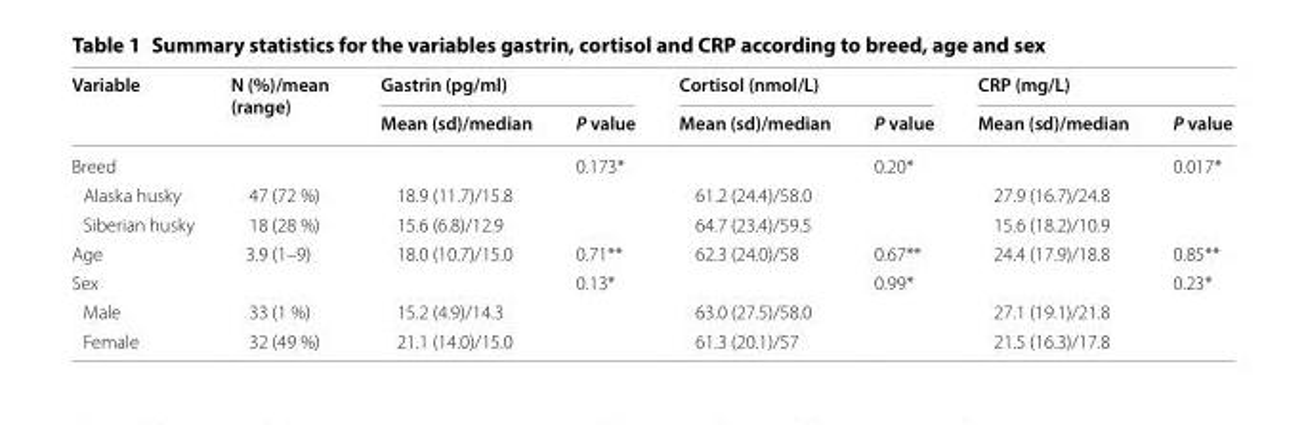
<table><thead><tr><td rowspan="2">Variable</td><td rowspan="2">N (%)/mean (range)</td><td colspan="2">Gastrin (pg/ml)</td><td colspan="2">Cortisol (nmol/L)</td><td colspan="2">CRP (mg/L)</td></tr><tr><td>Mean (sd)/median</td><td>P value</td><td>Mean (sd)/median</td><td>P value</td><td>Mean (sd)/median</td><td>P value</td></tr></thead><tbody><tr><td>Breed</td><td></td><td></td><td>0.173*</td><td></td><td>0.20*</td><td></td><td>0.017*</td></tr><tr><td>Alaska husky</td><td>47 (72 %)</td><td>18.9 (11.7)/15.8</td><td></td><td>61.2 (24.4)/58.0</td><td></td><td>27.9 (16.7)/24.8</td><td></td></tr><tr><td>Siberian husky</td><td>18 (28 %)</td><td>15.6 (6.8)/12.9</td><td></td><td>64.7 (23.4)/59.5</td><td></td><td>15.6 (18.2)/10.9</td><td></td></tr><tr><td>Age</td><td>3.9 (1–9)</td><td>18.0 (10.7)/15.0</td><td>0.71**</td><td>62.3 (24.0)/58</td><td>0.67**</td><td>24.4 (17.9)/18.8</td><td>0.85**</td></tr><tr><td>Sex</td><td></td><td></td><td>0.13*</td><td></td><td>0.99*</td><td></td><td>0.23*</td></tr><tr><td>Male</td><td>33 (1 %)</td><td>15.2 (4.9)/14.3</td><td></td><td>63.0 (27.5)/58.0</td><td></td><td>27.1 (19.1)/21.8</td><td></td></tr><tr><td>Female</td><td>32 (49 %)</td><td>21.1 (14.0)/15.0</td><td></td><td>61.3 (20.1)/57</td><td></td><td>21.5 (16.3)/17.8</td><td></td></tr></tbody></table>